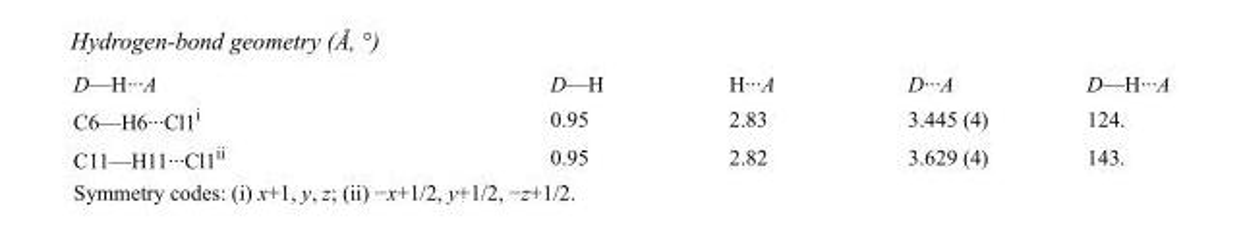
<table><tbody><tr><td>D—H···A</td><td>D—H</td><td>H···A</td><td>D···A</td><td>D—H···A</td></tr><tr><td>C6—H6···Cl1<sup>i</sup></td><td>0.95</td><td>2.83</td><td>3.445 (4)</td><td>124.</td></tr><tr><td>C11—H11···Cl1<sup>ii</sup></td><td>0.95</td><td>2.82</td><td>3.629 (4)</td><td>143.</td></tr></tbody></table>